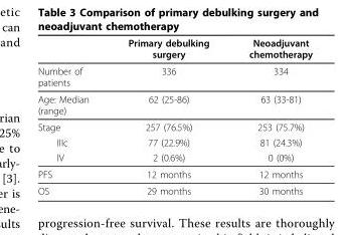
<table><thead><tr><td></td><td>Primary debulking surgery</td><td>Neoadjuvant chemotherapy</td></tr></thead><tbody><tr><td>Number of patients</td><td>336</td><td>334</td></tr><tr><td>Age: Median (range)</td><td>62 (25-86)</td><td>63 (33-81)</td></tr><tr><td>Stage</td><td>257 (76.5%)</td><td>253 (75.7%)</td></tr><tr><td>IIIc</td><td>77 (22.9%)</td><td>81 (24.3%)</td></tr><tr><td>IV</td><td>2 (0.6%)</td><td>0 (0%)</td></tr><tr><td>PFS</td><td>12 months</td><td>12 months</td></tr><tr><td>OS</td><td>29 months</td><td>30 months</td></tr></tbody></table>